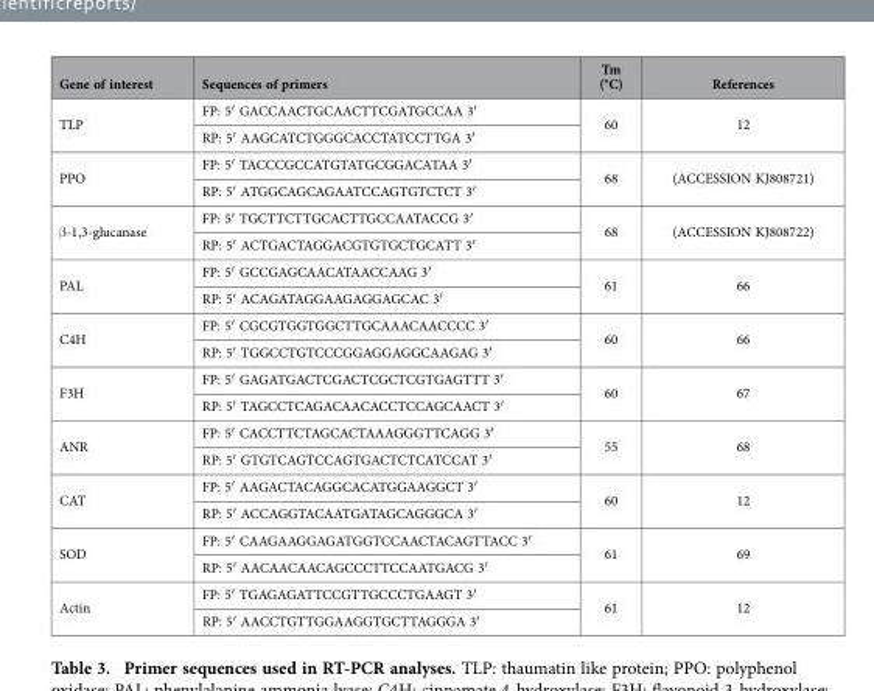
<table><thead><tr><td>Gene of interest</td><td>Sequences of primers</td><td>Tm (°C)</td><td>References</td></tr></thead><tbody><tr><td rowspan="2">TLP</td><td>FP: 5′ GACCAACTGCAACTTCGATGCCAA 3′</td><td rowspan="2">60</td><td rowspan="2">12</td></tr><tr><td>RP: 5′ AAGCATCTGGGCACCTATCCTTGA 3′</td></tr><tr><td rowspan="2">PPO</td><td>FP: 5′ TACCCGCCATGTATGCGGACATAA 3′</td><td rowspan="2">68</td><td rowspan="2">(ACCESSION KJ808721)</td></tr><tr><td>RP: 5′ ATGGCAGCAGAATCCAGTGTCTCT 3′</td></tr><tr><td rowspan="2">β-1,3-glucanase</td><td>FP: 5′ TGCTTCTTGCACTTGCCAATACCG 3′</td><td rowspan="2">68</td><td rowspan="2">(ACCESSION KJ808722)</td></tr><tr><td>RP: 5′ ACTGACTAGGACGTGTGCTGCATT 3′</td></tr><tr><td rowspan="2">PAL</td><td>FP: 5′ GCCGAGCAACATAACCAAG 3′</td><td rowspan="2">61</td><td rowspan="2">66</td></tr><tr><td>RP: 5′ ACAGATAGGAAGAGGAGCAC 3′</td></tr><tr><td rowspan="2">C4H</td><td>FP: 5′ CGCGTGGTGGCTTGCAAACAACCCC 3′</td><td rowspan="2">60</td><td rowspan="2">66</td></tr><tr><td>RP: 5′ TGGCCTGTCCCGGAGGAGGCAAGAG 3′</td></tr><tr><td rowspan="2">F3H</td><td>FP: 5′ GAGATGACTCGACTCGCTCGTGAGTTT 3′</td><td rowspan="2">60</td><td rowspan="2">67</td></tr><tr><td>RP: 5′ TAGCCTCAGACAACACCTCCAGCAACT 3′</td></tr><tr><td rowspan="2">ANR</td><td>FP: 5′ CACCTTCTAGCACTAAAGGGTTCAGG 3′</td><td rowspan="2">55</td><td rowspan="2">68</td></tr><tr><td>RP: 5′ GTGTCAGTCCAGTGACTCTCATCCAT 3′</td></tr><tr><td rowspan="2">CAT</td><td>FP: 5′ AAGACTACAGGCACATGGAAGGCT 3′</td><td rowspan="2">60</td><td rowspan="2">12</td></tr><tr><td>RP: 5′ ACCAGGTACAATGATAGCAGGGCA 3′</td></tr><tr><td rowspan="2">SOD</td><td>FP: 5′ CAAGAAGGAGATGGTCCAACTACAGTTACC 3′</td><td rowspan="2">61</td><td rowspan="2">69</td></tr><tr><td>RP: 5′ AACAACAACAGCCCTTCCAATGACG 3′</td></tr><tr><td rowspan="2">Actin</td><td>FP: 5′ TGAGAGATTCCGTTGCCCTGAAGT 3′</td><td rowspan="2">61</td><td rowspan="2">12</td></tr><tr><td>RP: 5′ AACCTGTTGGAAGGTGCTTAGGGA 3′</td></tr></tbody></table>